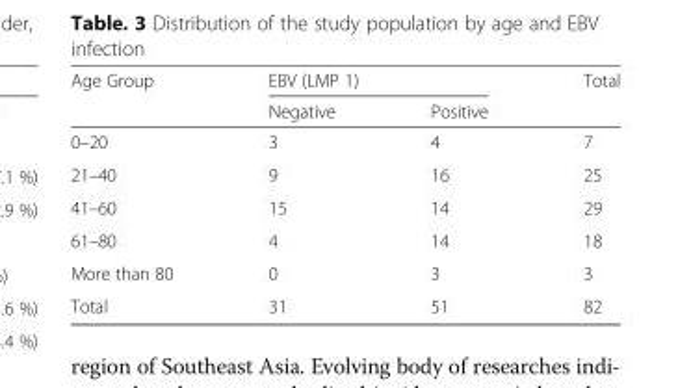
<table><thead><tr><td rowspan="2">Age Group</td><td colspan="2">EBV (LMP 1)</td><td rowspan="2">Total</td></tr><tr><td>Negative</td><td>Positive</td></tr></thead><tbody><tr><td>0–20</td><td>3</td><td>4</td><td>7</td></tr><tr><td>21–40</td><td>9</td><td>16</td><td>25</td></tr><tr><td>41–60</td><td>15</td><td>14</td><td>29</td></tr><tr><td>61–80</td><td>4</td><td>14</td><td>18</td></tr><tr><td>More than 80</td><td>0</td><td>3</td><td>3</td></tr><tr><td>Total</td><td>31</td><td>51</td><td>82</td></tr></tbody></table>